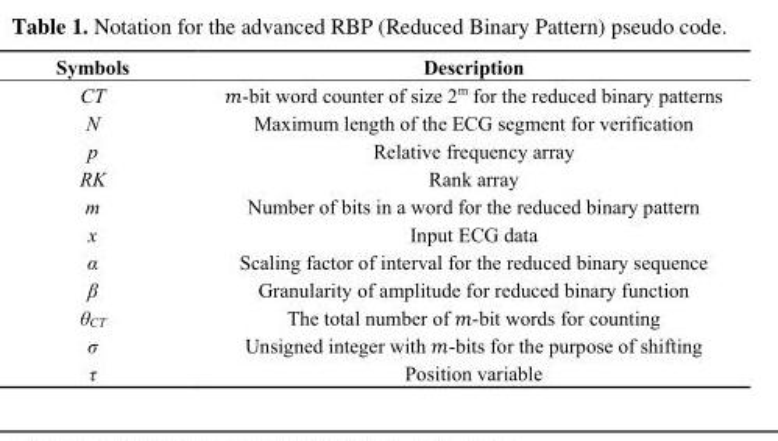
<table><thead><tr><td>Symbols</td><td>Description</td></tr></thead><tbody><tr><td>CT</td><td>𝑚-bit word counter of size 2<sup>m</sup> for the reduced binary patterns</td></tr><tr><td>N</td><td>Maximum length of the ECG segment for verification</td></tr><tr><td>p</td><td>Relative frequency array</td></tr><tr><td>RK</td><td>Rank array</td></tr><tr><td>m</td><td>Number of bits in a word for the reduced binary pattern</td></tr><tr><td>x</td><td>Input ECG data</td></tr><tr><td>α</td><td>Scaling factor of interval for the reduced binary sequence</td></tr><tr><td>β</td><td>Granularity of amplitude for reduced binary function</td></tr><tr><td>θ<sub>CT</sub></td><td>The total number of 𝑚-bit words for counting</td></tr><tr><td>σ</td><td>Unsigned integer with 𝑚-bits for the purpose of shifting</td></tr><tr><td>τ</td><td>Position variable</td></tr></tbody></table>